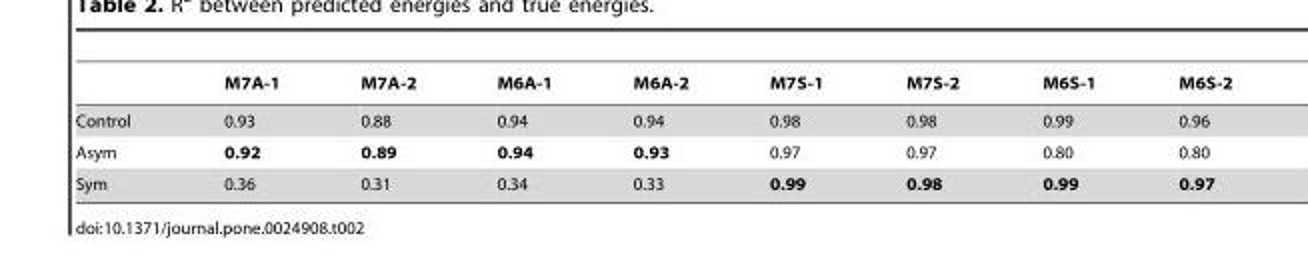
<table><thead><tr><td></td><td>M7A-1</td><td>M7A-2</td><td>M6A-1</td><td>M6A-2</td><td>M7S-1</td><td>M7S-2</td><td>M6S-1</td><td>M6S-2</td></tr></thead><tbody><tr><td>Control</td><td>0.93</td><td>0.88</td><td>0.94</td><td>0.94</td><td>0.98</td><td>0.98</td><td>0.99</td><td>0.96</td></tr><tr><td>Asym</td><td>0.92</td><td>0.89</td><td>0.94</td><td>0.93</td><td>0.97</td><td>0.97</td><td>0.80</td><td>0.80</td></tr><tr><td>Sym</td><td>0.36</td><td>0.31</td><td>0.34</td><td>0.33</td><td>0.99</td><td>0.98</td><td>0.99</td><td>0.97</td></tr></tbody></table>